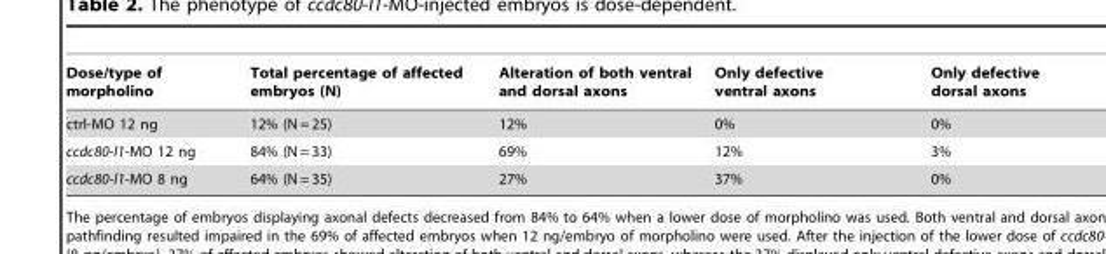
<table><thead><tr><td>Dose/type of morpholino</td><td>Total percentage of affected embryos (N)</td><td>Alteration of both ventral and dorsal axons</td><td>Only defective ventral axons</td><td>Only defective dorsal axons</td></tr></thead><tbody><tr><td>ctrl-MO 12 ng</td><td>12% (N = 25)</td><td>12%</td><td>0%</td><td>0%</td></tr><tr><td>ccdc80-l1-MO 12 ng</td><td>84% (N = 33)</td><td>69%</td><td>12%</td><td>3%</td></tr><tr><td>ccdc80-l1-MO 8 ng</td><td>64% (N = 35)</td><td>27%</td><td>37%</td><td>0%</td></tr></tbody></table>